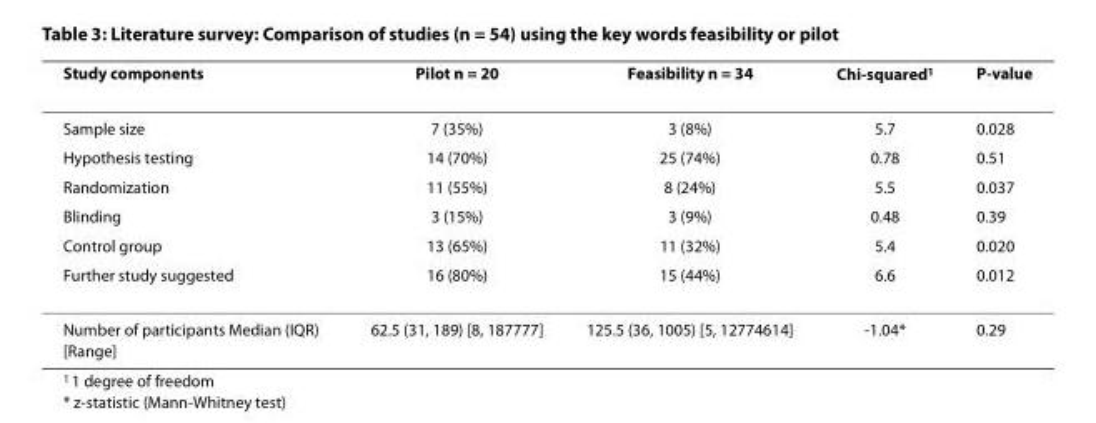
<table><thead><tr><td>Study components</td><td>Pilot n = 20</td><td>Feasibility n = 34</td><td>Chi-squared<sup>1</sup></td><td>P-value</td></tr></thead><tbody><tr><td>Sample size</td><td>7 (35%)</td><td>3 (8%)</td><td>5.7</td><td>0.028</td></tr><tr><td>Hypothesis testing</td><td>14 (70%)</td><td>25 (74%)</td><td>0.78</td><td>0.51</td></tr><tr><td>Randomization</td><td>11 (55%)</td><td>8 (24%)</td><td>5.5</td><td>0.037</td></tr><tr><td>Blinding</td><td>3 (15%)</td><td>3 (9%)</td><td>0.48</td><td>0.39</td></tr><tr><td>Control group</td><td>13 (65%)</td><td>11 (32%)</td><td>5.4</td><td>0.020</td></tr><tr><td>Further study suggested</td><td>16 (80%)</td><td>15 (44%)</td><td>6.6</td><td>0.012</td></tr><tr><td>Number of participants Median (IQR) [Range]</td><td>62.5 (31, 189) [8, 187777]</td><td>125.5 (36, 1005) [5, 12774614]</td><td>-1.04*</td><td>0.29</td></tr></tbody></table>